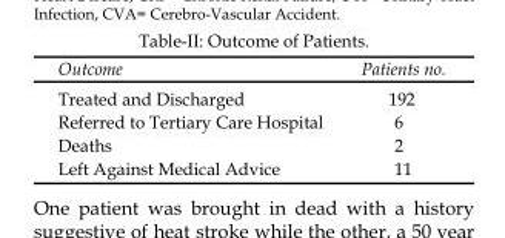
<table><thead><tr><td>Outcome</td><td>Patients no.</td></tr></thead><tbody><tr><td>Treated and Discharged</td><td>192</td></tr><tr><td>Referred to Tertiary Care Hospital</td><td>6</td></tr><tr><td>Deaths</td><td>2</td></tr><tr><td>Left Against Medical Advice</td><td>11</td></tr></tbody></table>